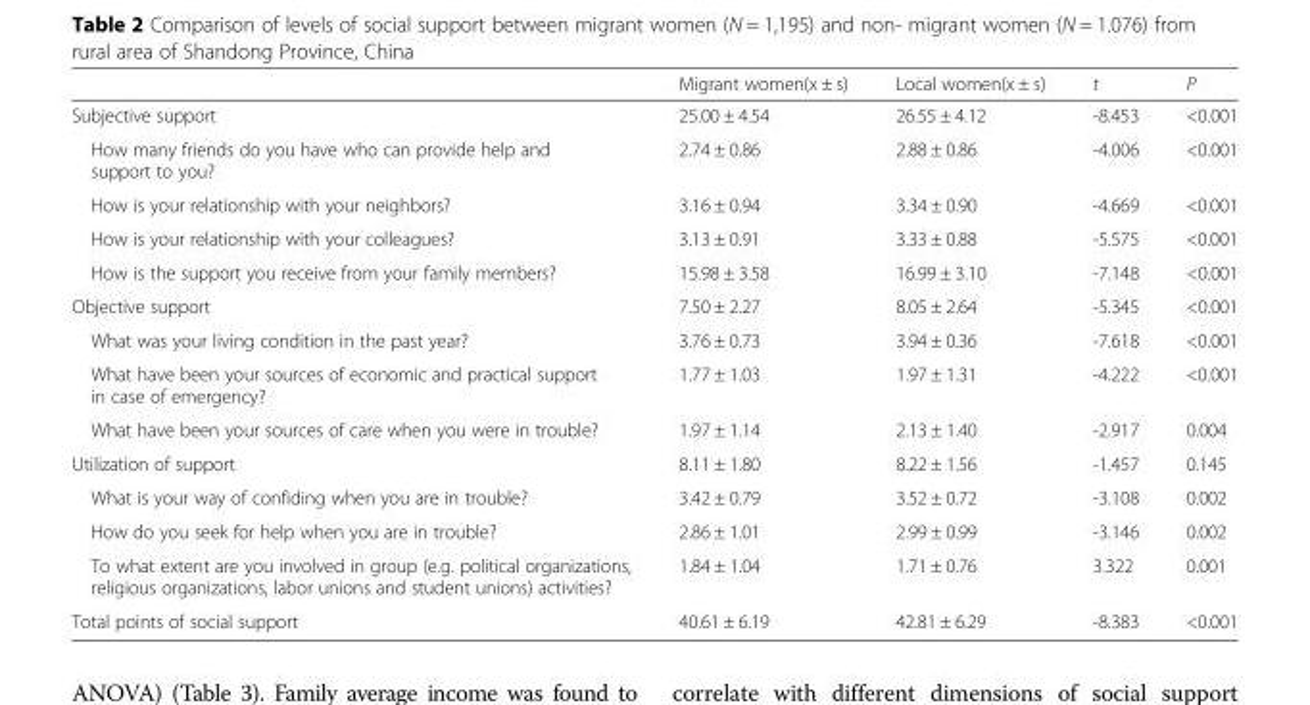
<table><thead><tr><td></td><td>Migrant women(x ± s)</td><td>Local women(x ± s)</td><td>t</td><td>P</td></tr></thead><tbody><tr><td>Subjective support</td><td>25.00 ± 4.54</td><td>26.55 ± 4.12</td><td>-8.453</td><td>&lt;0.001</td></tr><tr><td>How many friends do you have who can provide help and support to you?</td><td>2.74 ± 0.86</td><td>2.88 ± 0.86</td><td>-4.006</td><td>&lt;0.001</td></tr><tr><td>How is your relationship with your neighbors?</td><td>3.16 ± 0.94</td><td>3.34 ± 0.90</td><td>-4.669</td><td>&lt;0.001</td></tr><tr><td>How is your relationship with your colleagues?</td><td>3.13 ± 0.91</td><td>3.33 ± 0.88</td><td>-5.575</td><td>&lt;0.001</td></tr><tr><td>How is the support you receive from your family members?</td><td>15.98 ± 3.58</td><td>16.99 ± 3.10</td><td>-7.148</td><td>&lt;0.001</td></tr><tr><td>Objective support</td><td>7.50 ± 2.27</td><td>8.05 ± 2.64</td><td>-5.345</td><td>&lt;0.001</td></tr><tr><td>What was your living condition in the past year?</td><td>3.76 ± 0.73</td><td>3.94 ± 0.36</td><td>-7.618</td><td>&lt;0.001</td></tr><tr><td>What have been your sources of economic and practical support in case of emergency?</td><td>1.77 ± 1.03</td><td>1.97 ± 1.31</td><td>-4.222</td><td>&lt;0.001</td></tr><tr><td>What have been your sources of care when you were in trouble?</td><td>1.97 ± 1.14</td><td>2.13 ± 1.40</td><td>-2.917</td><td>0.004</td></tr><tr><td>Utilization of support</td><td>8.11 ± 1.80</td><td>8.22 ± 1.56</td><td>-1.457</td><td>0.145</td></tr><tr><td>What is your way of confiding when you are in trouble?</td><td>3.42 ± 0.79</td><td>3.52 ± 0.72</td><td>-3.108</td><td>0.002</td></tr><tr><td>How do you seek for help when you are in trouble?</td><td>2.86 ± 1.01</td><td>2.99 ± 0.99</td><td>-3.146</td><td>0.002</td></tr><tr><td>To what extent are you involved in group (e.g. political organizations, religious organizations, labor unions and student unions) activities?</td><td>1.84 ± 1.04</td><td>1.71 ± 0.76</td><td>3.322</td><td>0.001</td></tr><tr><td>Total points of social support</td><td>40.61 ± 6.19</td><td>42.81 ± 6.29</td><td>-8.383</td><td>&lt;0.001</td></tr></tbody></table>